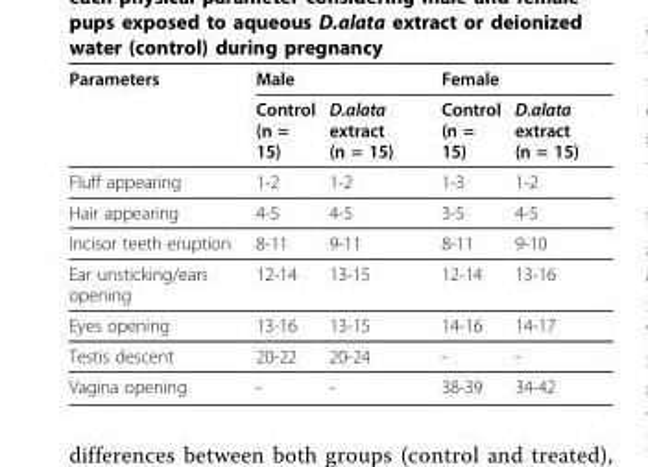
<table><thead><tr><td rowspan="2">Parameters</td><td colspan="2">Male</td><td colspan="2">Female</td></tr><tr><td>Control (n = 15)</td><td>D.alata extract (n = 15)</td><td>Control (n = 15)</td><td>D.alata extract (n = 15)</td></tr></thead><tbody><tr><td>Fluff appearing</td><td>1-2</td><td>1-2</td><td>1-3</td><td>1-2</td></tr><tr><td>Hair appearing</td><td>4-5</td><td>4-5</td><td>3-5</td><td>4-5</td></tr><tr><td>Incisor teeth eruption</td><td>8-11</td><td>9-11</td><td>8-11</td><td>9-10</td></tr><tr><td>Ear unsticking/ears opening</td><td>12-14</td><td>13-15</td><td>12-14</td><td>13-16</td></tr><tr><td>Eyes opening</td><td>13-16</td><td>13-15</td><td>14-16</td><td>14-17</td></tr><tr><td>Testis descent</td><td>20-22</td><td>20-24</td><td>-</td><td>-</td></tr><tr><td>Vagina opening</td><td>-</td><td>-</td><td>38-39</td><td>34-42</td></tr></tbody></table>